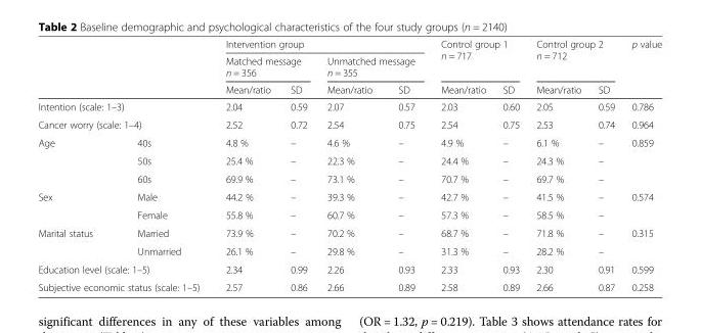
<table><thead><tr><td rowspan="3"></td><td rowspan="3"></td><td colspan="4">Intervention group</td><td rowspan="2" colspan="2">Control group 1 n = 717</td><td rowspan="2" colspan="2">Control group 2 n = 712</td><td rowspan="3">p value</td></tr><tr><td colspan="2">Matched message n = 356</td><td colspan="2">Unmatched message n = 355</td></tr><tr><td>Mean/ratio</td><td>SD</td><td>Mean/ratio</td><td>SD</td><td>Mean/ratio</td><td>SD</td><td>Mean/ratio</td><td>SD</td></tr></thead><tbody><tr><td colspan="2">Intention (scale: 1–3)</td><td>2.04</td><td>0.59</td><td>2.07</td><td>0.57</td><td>2.03</td><td>0.60</td><td>2.05</td><td>0.59</td><td>0.786</td></tr><tr><td colspan="2">Cancer worry (scale: 1–4)</td><td>2.52</td><td>0.72</td><td>2.54</td><td>0.75</td><td>2.54</td><td>0.75</td><td>2.53</td><td>0.74</td><td>0.964</td></tr><tr><td rowspan="3">Age</td><td>40s</td><td>4.8 %</td><td>–</td><td>4.6 %</td><td>–</td><td>4.9 %</td><td>–</td><td>6.1 %</td><td>–</td><td rowspan="3">0.859</td></tr><tr><td>50s</td><td>25.4 %</td><td>–</td><td>22.3 %</td><td>–</td><td>24.4 %</td><td>–</td><td>24.3 %</td><td>–</td></tr><tr><td>60s</td><td>69.9 %</td><td>–</td><td>73.1 %</td><td>–</td><td>70.7 %</td><td>–</td><td>69.7 %</td><td>–</td></tr><tr><td rowspan="2">Sex</td><td>Male</td><td>44.2 %</td><td>–</td><td>39.3 %</td><td>–</td><td>42.7 %</td><td>–</td><td>41.5 %</td><td>–</td><td rowspan="2">0.574</td></tr><tr><td>Female</td><td>55.8 %</td><td>–</td><td>60.7 %</td><td>–</td><td>57.3 %</td><td>–</td><td>58.5 %</td><td>–</td></tr><tr><td rowspan="2">Marital status</td><td>Married</td><td>73.9 %</td><td>–</td><td>70.2 %</td><td>–</td><td>68.7 %</td><td>–</td><td>71.8 %</td><td>–</td><td rowspan="2">0.315</td></tr><tr><td>Unmarried</td><td>26.1 %</td><td>–</td><td>29.8 %</td><td>–</td><td>31.3 %</td><td>–</td><td>28.2 %</td><td>–</td></tr><tr><td colspan="2">Education level (scale: 1–5)</td><td>2.34</td><td>0.99</td><td>2.26</td><td>0.93</td><td>2.33</td><td>0.93</td><td>2.30</td><td>0.91</td><td>0.599</td></tr><tr><td colspan="2">Subjective economic status (scale: 1–5)</td><td>2.57</td><td>0.86</td><td>2.66</td><td>0.89</td><td>2.58</td><td>0.89</td><td>2.66</td><td>0.87</td><td>0.258</td></tr></tbody></table>